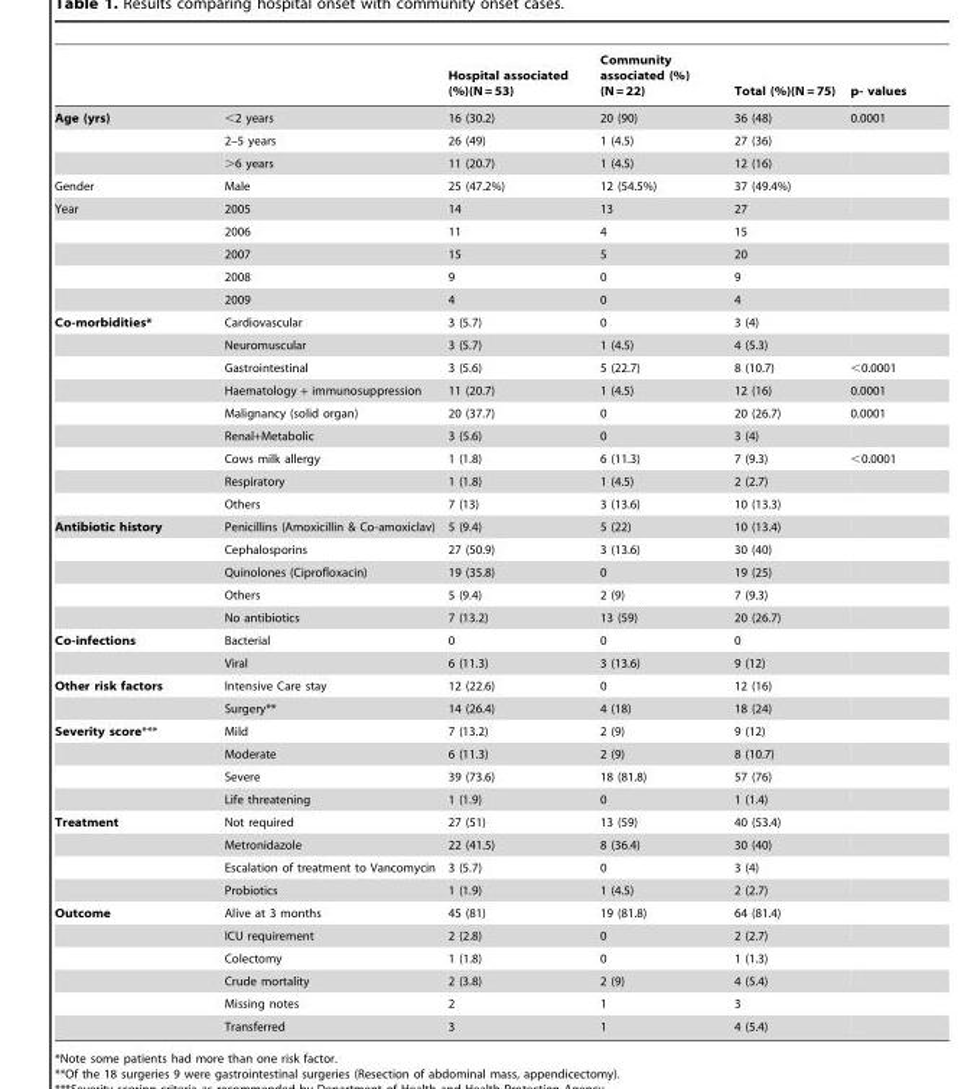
<table><thead><tr><td></td><td></td><td>Hospital associated (%)(N = 53)</td><td>Community associated (%) (N = 22)</td><td>Total (%)(N = 75)</td><td>p- values</td></tr></thead><tbody><tr><td rowspan="3">Age (yrs)</td><td>&lt;2 years</td><td>16 (30.2)</td><td>20 (90)</td><td>36 (48)</td><td>0.0001</td></tr><tr><td>2–5 years</td><td>26 (49)</td><td>1 (4.5)</td><td>27 (36)</td><td></td></tr><tr><td>&gt;6 years</td><td>11 (20.7)</td><td>1 (4.5)</td><td>12 (16)</td><td></td></tr><tr><td>Gender</td><td>Male</td><td>25 (47.2%)</td><td>12 (54.5%)</td><td>37 (49.4%)</td><td></td></tr><tr><td rowspan="5">Year</td><td>2005</td><td>14</td><td>13</td><td>27</td><td></td></tr><tr><td>2006</td><td>11</td><td>4</td><td>15</td><td></td></tr><tr><td>2007</td><td>15</td><td>5</td><td>20</td><td></td></tr><tr><td>2008</td><td>9</td><td>0</td><td>9</td><td></td></tr><tr><td>2009</td><td>4</td><td>0</td><td>4</td><td></td></tr><tr><td rowspan="9">Co-morbidities*</td><td>Cardiovascular</td><td>3 (5.7)</td><td>0</td><td>3 (4)</td><td></td></tr><tr><td>Neuromuscular</td><td>3 (5.7)</td><td>1 (4.5)</td><td>4 (5.3)</td><td></td></tr><tr><td>Gastrointestinal</td><td>3 (5.6)</td><td>5 (22.7)</td><td>8 (10.7)</td><td>&lt;0.0001</td></tr><tr><td>Haematology + immunosuppression</td><td>11 (20.7)</td><td>1 (4.5)</td><td>12 (16)</td><td>0.0001</td></tr><tr><td>Malignancy (solid organ)</td><td>20 (37.7)</td><td>0</td><td>20 (26.7)</td><td>0.0001</td></tr><tr><td>Renal+Metabolic</td><td>3 (5.6)</td><td>0</td><td>3 (4)</td><td></td></tr><tr><td>Cows milk allergy</td><td>1 (1.8)</td><td>6 (11.3)</td><td>7 (9.3)</td><td>&lt;0.0001</td></tr><tr><td>Respiratory</td><td>1 (1.8)</td><td>1 (4.5)</td><td>2 (2.7)</td><td></td></tr><tr><td>Others</td><td>7 (13)</td><td>3 (13.6)</td><td>10 (13.3)</td><td></td></tr><tr><td rowspan="5">Antibiotic history</td><td>Penicillins (Amoxicillin &amp; Co-amoxiclav)</td><td>5 (9.4)</td><td>5 (22)</td><td>10 (13.4)</td><td></td></tr><tr><td>Cephalosporins</td><td>27 (50.9)</td><td>3 (13.6)</td><td>30 (40)</td><td></td></tr><tr><td>Quinolones (Ciprofloxacin)</td><td>19 (35.8)</td><td>0</td><td>19 (25)</td><td></td></tr><tr><td>Others</td><td>5 (9.4)</td><td>2 (9)</td><td>7 (9.3)</td><td></td></tr><tr><td>No antibiotics</td><td>7 (13.2)</td><td>13 (59)</td><td>20 (26.7)</td><td></td></tr><tr><td rowspan="2">Co-infections</td><td>Bacterial</td><td>0</td><td>0</td><td>0</td><td></td></tr><tr><td>Viral</td><td>6 (11.3)</td><td>3 (13.6)</td><td>9 (12)</td><td></td></tr><tr><td rowspan="2">Other risk factors</td><td>Intensive Care stay</td><td>12 (22.6)</td><td>0</td><td>12 (16)</td><td></td></tr><tr><td>Surgery**</td><td>14 (26.4)</td><td>4 (18)</td><td>18 (24)</td><td></td></tr><tr><td rowspan="4">Severity score***</td><td>Mild</td><td>7 (13.2)</td><td>2 (9)</td><td>9 (12)</td><td></td></tr><tr><td>Moderate</td><td>6 (11.3)</td><td>2 (9)</td><td>8 (10.7)</td><td></td></tr><tr><td>Severe</td><td>39 (73.6)</td><td>18 (81.8)</td><td>57 (76)</td><td></td></tr><tr><td>Life threatening</td><td>1 (1.9)</td><td>0</td><td>1 (1.4)</td><td></td></tr><tr><td rowspan="4">Treatment</td><td>Not required</td><td>27 (51)</td><td>13 (59)</td><td>40 (53.4)</td><td></td></tr><tr><td>Metronidazole</td><td>22 (41.5)</td><td>8 (36.4)</td><td>30 (40)</td><td></td></tr><tr><td>Escalation of treatment to Vancomycin</td><td>3 (5.7)</td><td>0</td><td>3 (4)</td><td></td></tr><tr><td>Probiotics</td><td>1 (1.9)</td><td>1 (4.5)</td><td>2 (2.7)</td><td></td></tr><tr><td rowspan="6">Outcome</td><td>Alive at 3 months</td><td>45 (81)</td><td>19 (81.8)</td><td>64 (81.4)</td><td></td></tr><tr><td>ICU requirement</td><td>2 (2.8)</td><td>0</td><td>2 (2.7)</td><td></td></tr><tr><td>Colectomy</td><td>1 (1.8)</td><td>0</td><td>1 (1.3)</td><td></td></tr><tr><td>Crude mortality</td><td>2 (3.8)</td><td>2 (9)</td><td>4 (5.4)</td><td></td></tr><tr><td>Missing notes</td><td>2</td><td>1</td><td>3</td><td></td></tr><tr><td>Transferred</td><td>3</td><td>1</td><td>4 (5.4)</td><td></td></tr></tbody></table>